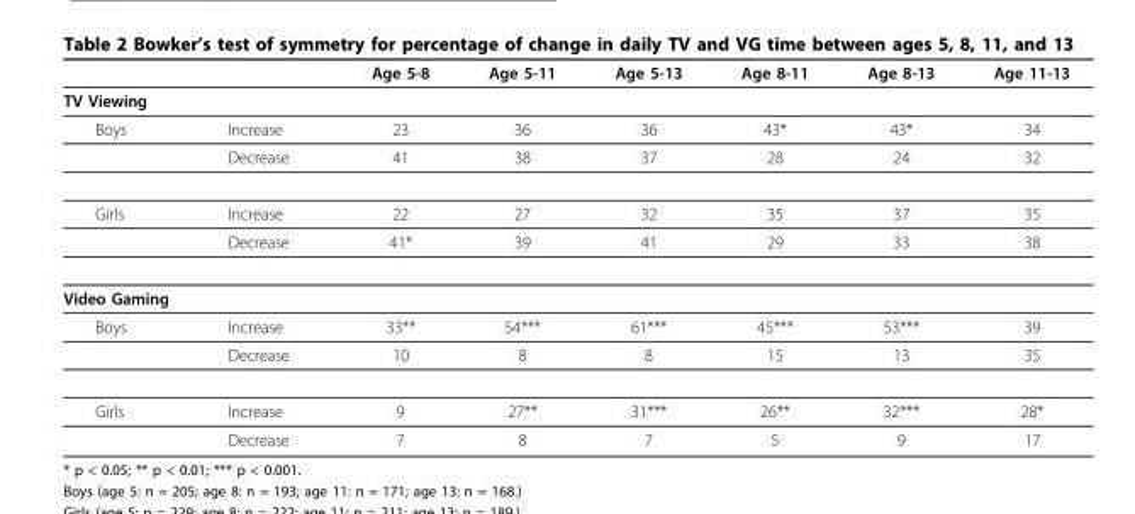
<table><thead><tr><td></td><td></td><td>Age 5-8</td><td>Age 5-11</td><td>Age 5-13</td><td>Age 8-11</td><td>Age 8-13</td><td>Age 11-13</td></tr></thead><tbody><tr><td colspan="8">TV Viewing</td></tr><tr><td rowspan="2">Boys</td><td>Increase</td><td>23</td><td>36</td><td>36</td><td>43*</td><td>43*</td><td>34</td></tr><tr><td>Decrease</td><td>41</td><td>38</td><td>37</td><td>28</td><td>24</td><td>32</td></tr><tr><td rowspan="2">Girls</td><td>Increase</td><td>22</td><td>27</td><td>32</td><td>35</td><td>37</td><td>35</td></tr><tr><td>Decrease</td><td>41*</td><td>39</td><td>41</td><td>29</td><td>33</td><td>38</td></tr><tr><td colspan="8">Video Gaming</td></tr><tr><td rowspan="2">Boys</td><td>Increase</td><td>33**</td><td>54***</td><td>61***</td><td>45***</td><td>53***</td><td>39</td></tr><tr><td>Decrease</td><td>10</td><td>8</td><td>8</td><td>15</td><td>13</td><td>35</td></tr><tr><td rowspan="2">Girls</td><td>Increase</td><td>9</td><td>27**</td><td>31***</td><td>26**</td><td>32***</td><td>28*</td></tr><tr><td>Decrease</td><td>7</td><td>8</td><td>7</td><td>5</td><td>9</td><td>17</td></tr></tbody></table>